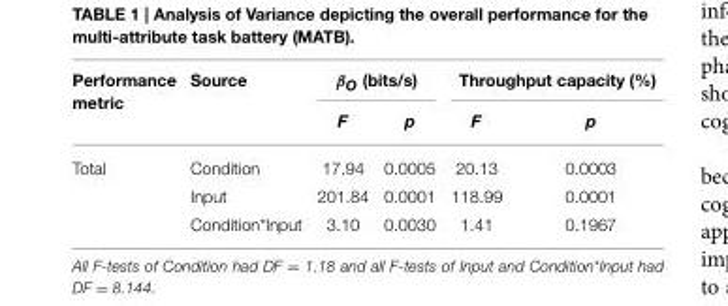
<table><thead><tr><td rowspan="2">Performance metric</td><td rowspan="2">Source</td><td colspan="2">β<sub>O</sub> (bits/s)</td><td colspan="2">Throughput capacity (%)</td></tr><tr><td>F</td><td>p</td><td>F</td><td>p</td></tr></thead><tbody><tr><td rowspan="3">Total</td><td>Condition</td><td>17.94</td><td>0.0005</td><td>20.13</td><td>0.0003</td></tr><tr><td>Input</td><td>201.84</td><td>0.0001</td><td>118.99</td><td>0.0001</td></tr><tr><td>Condition*Input</td><td>3.10</td><td>0.0030</td><td>1.41</td><td>0.1967</td></tr></tbody></table>